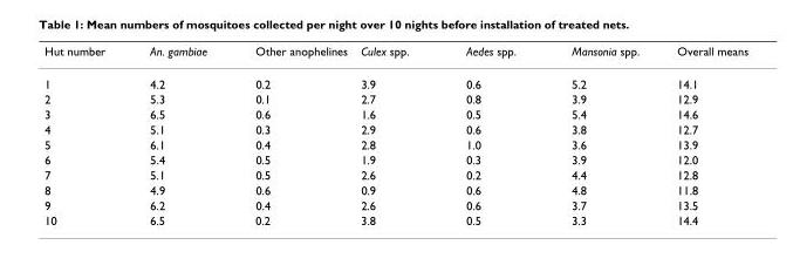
<table><thead><tr><td>Hut number</td><td>An. gambiae</td><td>Other anophelines</td><td>Culex spp.</td><td>Aedes spp.</td><td>Mansonia spp.</td><td>Overall means</td></tr></thead><tbody><tr><td>1</td><td>4.2</td><td>0.2</td><td>3.9</td><td>0.6</td><td>5.2</td><td>14.1</td></tr><tr><td>2</td><td>5.3</td><td>0.1</td><td>2.7</td><td>0.8</td><td>3.9</td><td>12.9</td></tr><tr><td>3</td><td>6.5</td><td>0.6</td><td>1.6</td><td>0.5</td><td>5.4</td><td>14.6</td></tr><tr><td>4</td><td>5.1</td><td>0.3</td><td>2.9</td><td>0.6</td><td>3.8</td><td>12.7</td></tr><tr><td>5</td><td>6.1</td><td>0.4</td><td>2.8</td><td>1.0</td><td>3.6</td><td>13.9</td></tr><tr><td>6</td><td>5.4</td><td>0.5</td><td>1.9</td><td>0.3</td><td>3.9</td><td>12.0</td></tr><tr><td>7</td><td>5.1</td><td>0.5</td><td>2.6</td><td>0.2</td><td>4.4</td><td>12.8</td></tr><tr><td>8</td><td>4.9</td><td>0.6</td><td>0.9</td><td>0.6</td><td>4.8</td><td>11.8</td></tr><tr><td>9</td><td>6.2</td><td>0.4</td><td>2.6</td><td>0.6</td><td>3.7</td><td>13.5</td></tr><tr><td>10</td><td>6.5</td><td>0.2</td><td>3.8</td><td>0.5</td><td>3.3</td><td>14.4</td></tr></tbody></table>